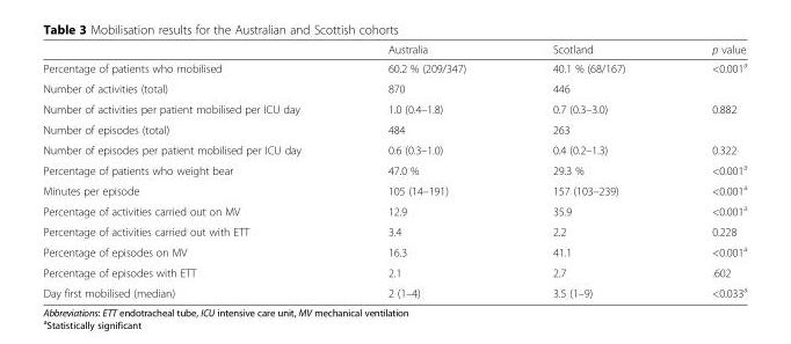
<table><thead><tr><td></td><td>Australia</td><td>Scotland</td><td>p value</td></tr></thead><tbody><tr><td>Percentage of patients who mobilised</td><td>60.2 % (209/347)</td><td>40.1 % (68/167)</td><td>&lt;0.001<sup>a</sup></td></tr><tr><td>Number of activities (total)</td><td>870</td><td>446</td><td></td></tr><tr><td>Number of activities per patient mobilised per ICU day</td><td>1.0 (0.4–1.8)</td><td>0.7 (0.3–3.0)</td><td>0.882</td></tr><tr><td>Number of episodes (total)</td><td>484</td><td>263</td><td></td></tr><tr><td>Number of episodes per patient mobilised per ICU day</td><td>0.6 (0.3–1.0)</td><td>0.4 (0.2–1.3)</td><td>0.322</td></tr><tr><td>Percentage of patients who weight bear</td><td>47.0 %</td><td>29.3 %</td><td>&lt;0.001<sup>a</sup></td></tr><tr><td>Minutes per episode</td><td>105 (14–191)</td><td>157 (103–239)</td><td>&lt;0.001<sup>a</sup></td></tr><tr><td>Percentage of activities carried out on MV</td><td>12.9</td><td>35.9</td><td>&lt;0.001<sup>a</sup></td></tr><tr><td>Percentage of activities carried out with ETT</td><td>3.4</td><td>2.2</td><td>0.228</td></tr><tr><td>Percentage of episodes on MV</td><td>16.3</td><td>41.1</td><td>&lt;0.001<sup>a</sup></td></tr><tr><td>Percentage of episodes with ETT</td><td>2.1</td><td>2.7</td><td>.602</td></tr><tr><td>Day first mobilised (median)</td><td>2 (1–4)</td><td>3.5 (1–9)</td><td>&lt;0.033<sup>a</sup></td></tr></tbody></table>